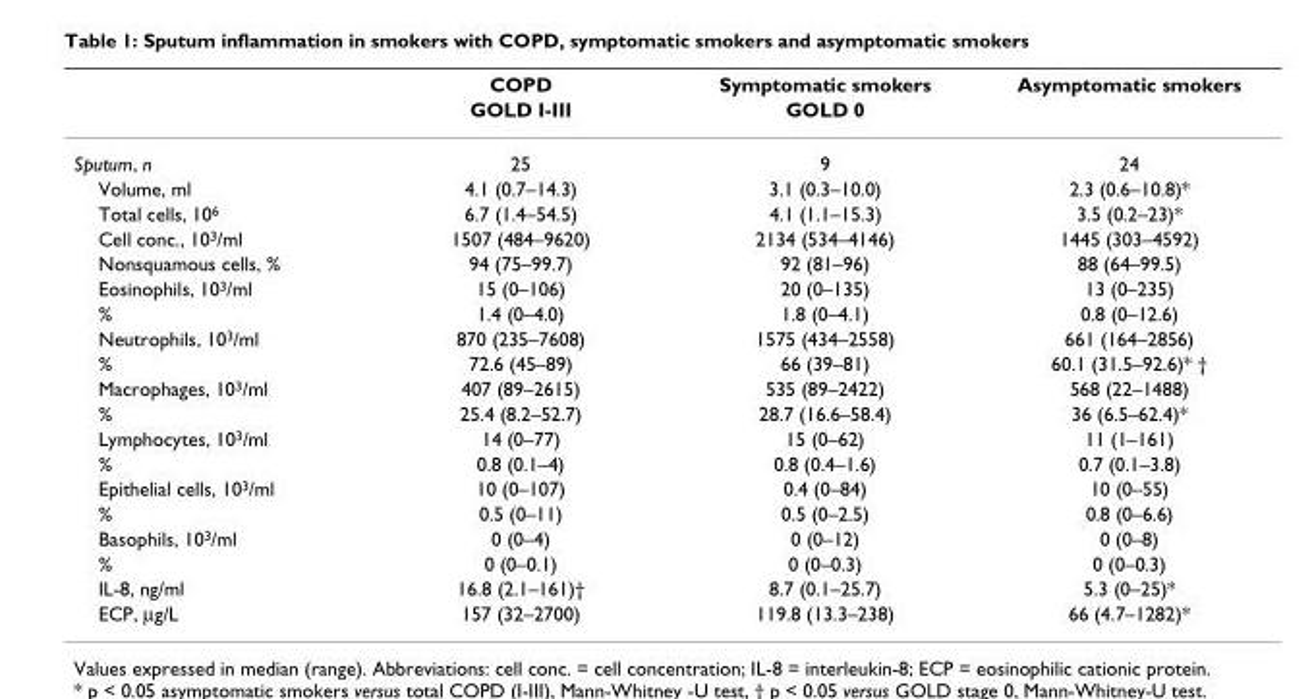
<table><thead><tr><td rowspan="2"></td><td rowspan="2">COPD GOLD I-III</td><td rowspan="2">Symptomatic smokers GOLD 0</td><td rowspan="2">Asymptomatic smokers</td></tr><tr></tr></thead><tbody><tr><td>Sputum, n</td><td>25</td><td>9</td><td>24</td></tr><tr><td>Volume, ml</td><td>4.1 (0.7–14.3)</td><td>3.1 (0.3–10.0)</td><td>2.3 (0.6–10.8)*</td></tr><tr><td>Total cells, 10<sup>6</sup></td><td>6.7 (1.4–54.5)</td><td>4.1 (1.1–15.3)</td><td>3.5 (0.2–23)*</td></tr><tr><td>Cell conc., 10<sup>3</sup>/ml</td><td>1507 (484–9620)</td><td>2134 (534–4146)</td><td>1445 (303–4592)</td></tr><tr><td>Nonsquamous cells, %</td><td>94 (75–99.7)</td><td>92 (81–96)</td><td>88 (64–99.5)</td></tr><tr><td>Eosinophils, 10<sup>3</sup>/ml</td><td>15 (0–106)</td><td>20 (0–135)</td><td>13 (0–235)</td></tr><tr><td>%</td><td>1.4 (0–4.0)</td><td>1.8 (0–4.1)</td><td>0.8 (0–12.6)</td></tr><tr><td>Neutrophils, 10<sup>3</sup>/ml</td><td>870 (235–7608)</td><td>1575 (434–2558)</td><td>661 (164–2856)</td></tr><tr><td>%</td><td>72.6 (45–89)</td><td>66 (39–81)</td><td>60.1 (31.5–92.6)* †</td></tr><tr><td>Macrophages, 10<sup>3</sup>/ml</td><td>407 (89–2615)</td><td>535 (89–2422)</td><td>568 (22–1488)</td></tr><tr><td>%</td><td>25.4 (8.2–52.7)</td><td>28.7 (16.6–58.4)</td><td>36 (6.5–62.4)*</td></tr><tr><td>Lymphocytes, 10<sup>3</sup>/ml</td><td>14 (0–77)</td><td>15 (0–62)</td><td>11 (1–161)</td></tr><tr><td>%</td><td>0.8 (0.1–4)</td><td>0.8 (0.4–1.6)</td><td>0.7 (0.1–3.8)</td></tr><tr><td>Epithelial cells, 10<sup>3</sup>/ml</td><td>10 (0–107)</td><td>0.4 (0–84)</td><td>10 (0–55)</td></tr><tr><td>%</td><td>0.5 (0–11)</td><td>0.5 (0–2.5)</td><td>0.8 (0–6.6)</td></tr><tr><td>Basophils, 10<sup>3</sup>/ml</td><td>0 (0–4)</td><td>0 (0–12)</td><td>0 (0–8)</td></tr><tr><td>%</td><td>0 (0–0.1)</td><td>0 (0–0.3)</td><td>0 (0–0.3)</td></tr><tr><td>IL-8, ng/ml</td><td>16.8 (2.1–161)†</td><td>8.7 (0.1–25.7)</td><td>5.3 (0–25)*</td></tr><tr><td>ECP, µg/L</td><td>157 (32–2700)</td><td>119.8 (13.3–238)</td><td>66 (4.7–1282)*</td></tr></tbody></table>